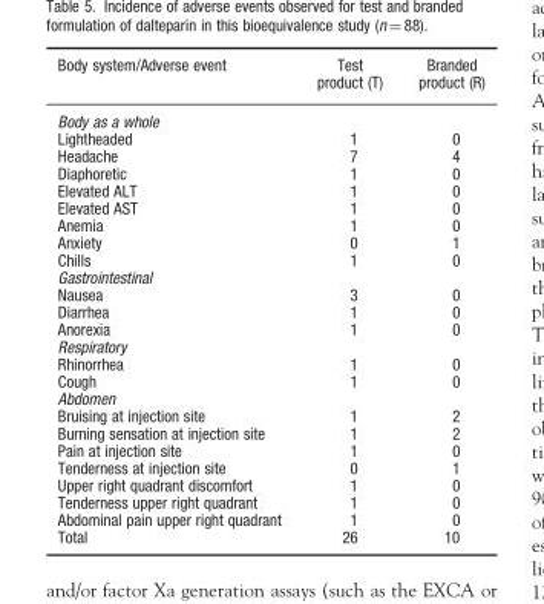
<table><thead><tr><td>Body system/Adverse event</td><td>Test product (T)</td><td>Branded product (R)</td></tr></thead><tbody><tr><td colspan="3">Body as a whole</td></tr><tr><td>Lightheaded</td><td>1</td><td>0</td></tr><tr><td>Headache</td><td>7</td><td>4</td></tr><tr><td>Diaphoretic</td><td>1</td><td>0</td></tr><tr><td>Elevated ALT</td><td>1</td><td>0</td></tr><tr><td>Elevated AST</td><td>1</td><td>0</td></tr><tr><td>Anemia</td><td>1</td><td>0</td></tr><tr><td>Anxiety</td><td>0</td><td>1</td></tr><tr><td>Chills</td><td>1</td><td>0</td></tr><tr><td colspan="3">Gastrointestinal</td></tr><tr><td>Nausea</td><td>3</td><td>0</td></tr><tr><td>Diarrhea</td><td>1</td><td>0</td></tr><tr><td>Anorexia</td><td>1</td><td>0</td></tr><tr><td colspan="3">Respiratory</td></tr><tr><td>Rhinorrhea</td><td>1</td><td>0</td></tr><tr><td>Cough</td><td>1</td><td>0</td></tr><tr><td colspan="3">Abdomen</td></tr><tr><td>Bruising at injection site</td><td>1</td><td>2</td></tr><tr><td>Burning sensation at injection site</td><td>1</td><td>2</td></tr><tr><td>Pain at injection site</td><td>1</td><td>0</td></tr><tr><td>Tenderness at injection site</td><td>0</td><td>1</td></tr><tr><td>Upper right quadrant discomfort</td><td>1</td><td>0</td></tr><tr><td>Tenderness upper right quadrant</td><td>1</td><td>0</td></tr><tr><td>Abdominal pain upper right quadrant</td><td>1</td><td>0</td></tr><tr><td>Total</td><td>26</td><td>10</td></tr></tbody></table>